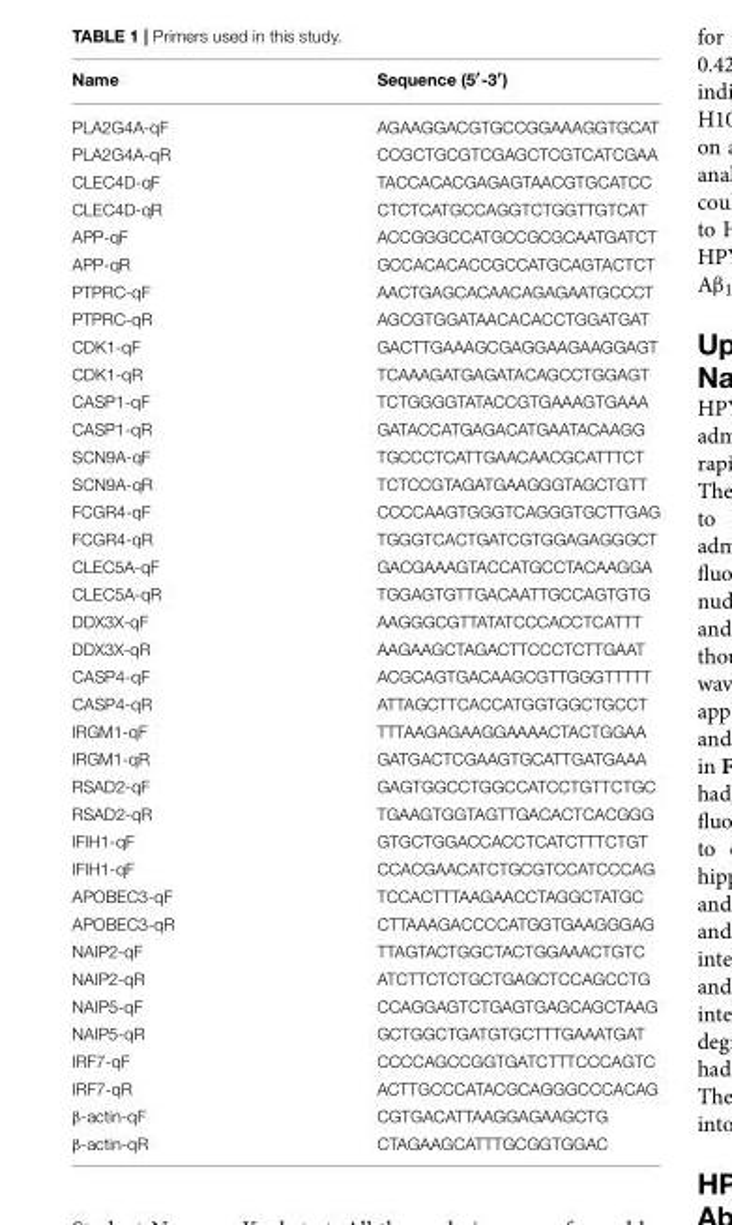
<table><thead><tr><td>Name</td><td>Sequence (5′-3′)</td></tr></thead><tbody><tr><td>PLA2G4A-qF</td><td>AGAAGGACGTGCCGGAAAGGTGCAT</td></tr><tr><td>PLA2G4A-qR</td><td>CCGCTGCGTCGAGCTCGTCATCGAA</td></tr><tr><td>CLEC4D-qF</td><td>TACCACACGAGAGTAACGTGCATCC</td></tr><tr><td>CLEC4D-qR</td><td>CTCTCATGCCAGGTCTGGTTGTCAT</td></tr><tr><td>APP-qF</td><td>ACCGGGCCATGCCGCGCAATGATCT</td></tr><tr><td>APP-qR</td><td>GCCACACACCGCCATGCAGTACTCT</td></tr><tr><td>PTPRC-qF</td><td>AACTGAGCACAACAGAGAATGCCCT</td></tr><tr><td>PTPRC-qR</td><td>AGCGTGGATAACACACCTGGATGAT</td></tr><tr><td>CDK1-qF</td><td>GACTTGAAAGCGAGGAAGAAGGAGT</td></tr><tr><td>CDK1-qR</td><td>TCAAAGATGAGATACAGCCTGGAGT</td></tr><tr><td>CASP1-qF</td><td>TCTGGGGTATACCGTGAAAGTGAAA</td></tr><tr><td>CASP1-qR</td><td>GATACCATGAGACATGAATACAAGG</td></tr><tr><td>SCN9A-qF</td><td>TGCCCTCATTGAACAACGCATTTCT</td></tr><tr><td>SCN9A-qR</td><td>TCTCCGTAGATGAAGGGTAGCTGTT</td></tr><tr><td>FCGR4-qF</td><td>CCCCAAGTGGGTCAGGGTGCTTGAG</td></tr><tr><td>FCGR4-qR</td><td>TGGGTCACTGATCGTGGAGAGGGCT</td></tr><tr><td>CLEC5A-qF</td><td>GACGAAAGTACCATGCCTACAAGGA</td></tr><tr><td>CLEC5A-qR</td><td>TGGAGTGTTGACAATTGCCAGTGTG</td></tr><tr><td>DDX3X-qF</td><td>AAGGGCGTTATATCCCACCTCATTT</td></tr><tr><td>DDX3X-qR</td><td>AAGAAGCTAGACTTCCCTCTTGAAT</td></tr><tr><td>CASP4-qF</td><td>ACGCAGTGACAAGCGTTGGGTTTTT</td></tr><tr><td>CASP4-qR</td><td>ATTAGCTTCACCATGGTGGCTGCCT</td></tr><tr><td>IRGM1-qF</td><td>TTTAAGAGAAGGAAAACTACTGGAA</td></tr><tr><td>IRGM1-qR</td><td>GATGACTCGAAGTGCATTGATGAAA</td></tr><tr><td>RSAD2-qF</td><td>GAGTGGCCTGGCCATCCTGTTCTGC</td></tr><tr><td>RSAD2-qR</td><td>TGAAGTGGTAGTTGACACTCACGGG</td></tr><tr><td>IFIH1-qF</td><td>GTGCTGGACCACCTCATCTTTCTGT</td></tr><tr><td>IFIH1-qF</td><td>CCACGAACATCTGCGTCCATCCCAG</td></tr><tr><td>APOBEC3-qF</td><td>TCCACTTTAAGAACCTAGGCTATGC</td></tr><tr><td>APOBEC3-qR</td><td>CTTAAAGACCCCATGGTGAAGGGAG</td></tr><tr><td>NAIP2-qF</td><td>TTAGTACTGGCTACTGGAAACTGTC</td></tr><tr><td>NAIP2-qR</td><td>ATCTTCTCTGCTGAGCTCCAGCCTG</td></tr><tr><td>NAIP5-qF</td><td>CCAGGAGTCTGAGTGAGCAGCTAAG</td></tr><tr><td>NAIP5-qR</td><td>GCTGGCTGATGTGCTTTGAAATGAT</td></tr><tr><td>IRF7-qF</td><td>CCCCAGCCGGTGATCTTTCCCAGTC</td></tr><tr><td>IRF7-qR</td><td>ACTTGCCCATACGCAGGGCCCACAG</td></tr><tr><td>β-actin-qF</td><td>CGTGACATTAAGGAGAAGCTG</td></tr><tr><td>β-actin-qR</td><td>CTAGAAGCATTTGCGGTGGAC</td></tr></tbody></table>